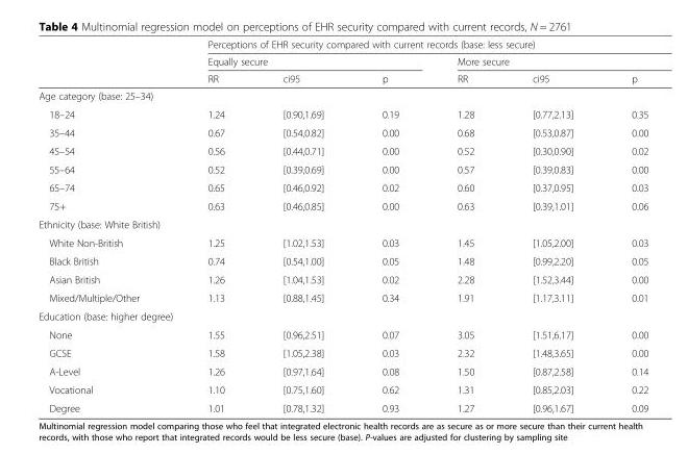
<table><thead><tr><td rowspan="3"></td><td colspan="6">Perceptions of EHR security compared with current records (base: less secure)</td></tr><tr><td colspan="3">Equally secure</td><td colspan="3">More secure</td></tr><tr><td>RR</td><td>ci95</td><td>p</td><td>RR</td><td>ci95</td><td>p</td></tr></thead><tbody><tr><td colspan="7">Age category (base: 25–34)</td></tr><tr><td>18–24</td><td>1.24</td><td>[0.90,1.69]</td><td>0.19</td><td>1.28</td><td>[0.77,2.13]</td><td>0.35</td></tr><tr><td>35–44</td><td>0.67</td><td>[0.54,0.82]</td><td>0.00</td><td>0.68</td><td>[0.53,0.87]</td><td>0.00</td></tr><tr><td>45–54</td><td>0.56</td><td>[0.44,0.71]</td><td>0.00</td><td>0.52</td><td>[0.30,0.90]</td><td>0.02</td></tr><tr><td>55–64</td><td>0.52</td><td>[0.39,0.69]</td><td>0.00</td><td>0.57</td><td>[0.39,0.83]</td><td>0.00</td></tr><tr><td>65–74</td><td>0.65</td><td>[0.46,0.92]</td><td>0.02</td><td>0.60</td><td>[0.37,0.95]</td><td>0.03</td></tr><tr><td>75+</td><td>0.63</td><td>[0.46,0.85]</td><td>0.00</td><td>0.63</td><td>[0.39,1.01]</td><td>0.06</td></tr><tr><td colspan="7">Ethnicity (base: White British)</td></tr><tr><td>White Non-British</td><td>1.25</td><td>[1.02,1.53]</td><td>0.03</td><td>1.45</td><td>[1.05,2.00]</td><td>0.03</td></tr><tr><td>Black British</td><td>0.74</td><td>[0.54,1.00]</td><td>0.05</td><td>1.48</td><td>[0.99,2.20]</td><td>0.05</td></tr><tr><td>Asian British</td><td>1.26</td><td>[1.04,1.53]</td><td>0.02</td><td>2.28</td><td>[1.52,3.44]</td><td>0.00</td></tr><tr><td>Mixed/Multiple/Other</td><td>1.13</td><td>[0.88,1.45]</td><td>0.34</td><td>1.91</td><td>[1.17,3.11]</td><td>0.01</td></tr><tr><td colspan="7">Education (base: higher degree)</td></tr><tr><td>None</td><td>1.55</td><td>[0.96,2.51]</td><td>0.07</td><td>3.05</td><td>[1.51,6.17]</td><td>0.00</td></tr><tr><td>GCSE</td><td>1.58</td><td>[1.05,2.38]</td><td>0.03</td><td>2.32</td><td>[1.48,3.65]</td><td>0.00</td></tr><tr><td>A-Level</td><td>1.26</td><td>[0.97,1.64]</td><td>0.08</td><td>1.50</td><td>[0.87,2.58]</td><td>0.14</td></tr><tr><td>Vocational</td><td>1.10</td><td>[0.75,1.60]</td><td>0.62</td><td>1.31</td><td>[0.85,2.03]</td><td>0.22</td></tr><tr><td>Degree</td><td>1.01</td><td>[0.78,1.32]</td><td>0.93</td><td>1.27</td><td>[0.96,1.67]</td><td>0.09</td></tr></tbody></table>